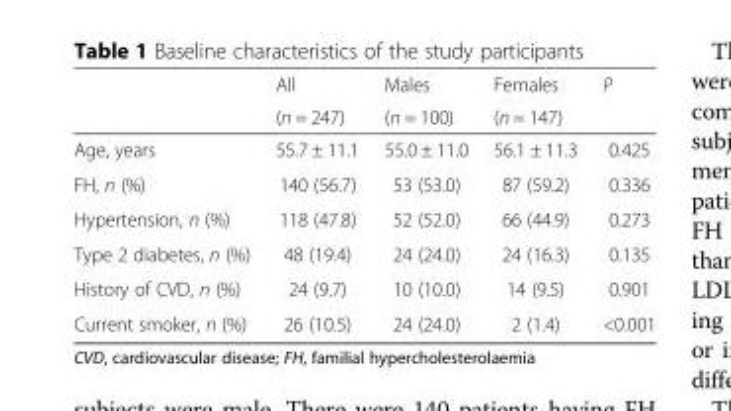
<table><thead><tr><td rowspan="2"></td><td rowspan="2">All (n = 247)</td><td rowspan="2">Males (n = 100)</td><td rowspan="2">Females (n = 147)</td><td rowspan="2">P</td></tr><tr></tr></thead><tbody><tr><td>Age, years</td><td>55.7 ± 11.1</td><td>55.0 ± 11.0</td><td>56.1 ± 11.3</td><td>0.425</td></tr><tr><td>FH, n (%)</td><td>140 (56.7)</td><td>53 (53.0)</td><td>87 (59.2)</td><td>0.336</td></tr><tr><td>Hypertension, n (%)</td><td>118 (47.8)</td><td>52 (52.0)</td><td>66 (44.9)</td><td>0.273</td></tr><tr><td>Type 2 diabetes, n (%)</td><td>48 (19.4)</td><td>24 (24.0)</td><td>24 (16.3)</td><td>0.135</td></tr><tr><td>History of CVD, n (%)</td><td>24 (9.7)</td><td>10 (10.0)</td><td>14 (9.5)</td><td>0.901</td></tr><tr><td>Current smoker, n (%)</td><td>26 (10.5)</td><td>24 (24.0)</td><td>2 (1.4)</td><td>&lt;0.001</td></tr></tbody></table>